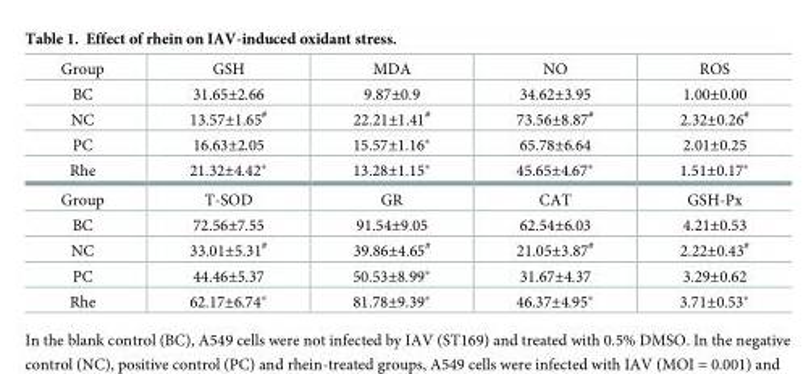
<table><tbody><tr><td>Group</td><td>GSH</td><td>MDA</td><td>NO</td><td>ROS</td></tr><tr><td>BC</td><td>31.65±2.66</td><td>9.87±0.9</td><td>34.62±3.95</td><td>1.00±0.00</td></tr><tr><td>NC</td><td>13.57±1.65<sup>#</sup></td><td>22.21±1.41<sup>#</sup></td><td>73.56±8.87<sup>#</sup></td><td>2.32±0.26<sup>#</sup></td></tr><tr><td>PC</td><td>16.63±2.05</td><td>15.57±1.16*</td><td>65.78±6.64</td><td>2.01±0.25</td></tr><tr><td>Rhe</td><td>21.32±4.42*</td><td>13.28±1.15*</td><td>45.65±4.67*</td><td>1.51±0.17*</td></tr><tr><td>Group</td><td>T-SOD</td><td>GR</td><td>CAT</td><td>GSH-Px</td></tr><tr><td>BC</td><td>72.56±7.55</td><td>91.54±9.05</td><td>62.54±6.03</td><td>4.21±0.53</td></tr><tr><td>NC</td><td>33.01±5.31<sup>#</sup></td><td>39.86±4.65<sup>#</sup></td><td>21.05±3.87<sup>#</sup></td><td>2.22±0.43<sup>#</sup></td></tr><tr><td>PC</td><td>44.46±5.37</td><td>50.53±8.99*</td><td>31.67±4.37</td><td>3.29±0.62</td></tr><tr><td>Rhe</td><td>62.17±6.74*</td><td>81.78±9.39*</td><td>46.37±4.95*</td><td>3.71±0.53*</td></tr></tbody></table>